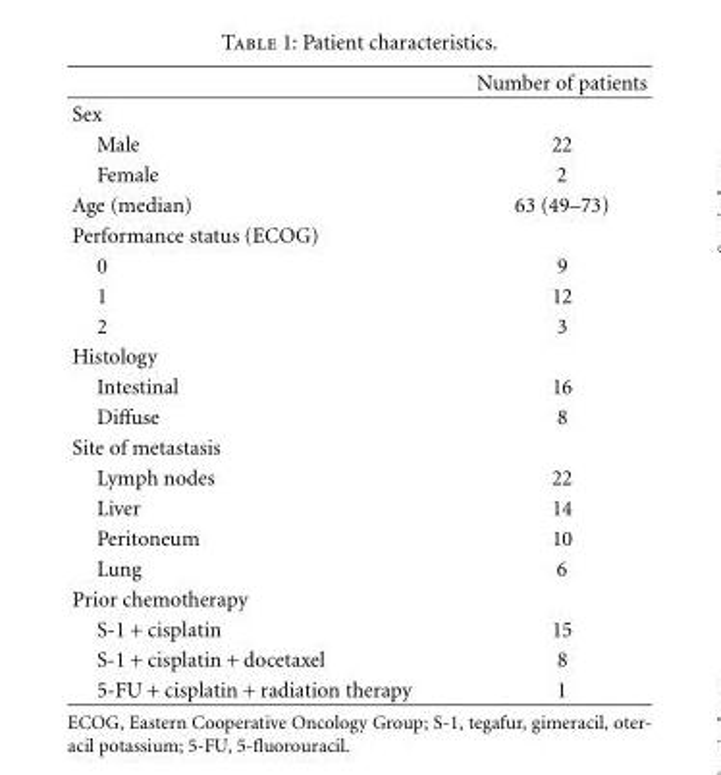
<table><thead><tr><td></td><td>Number of patients</td></tr></thead><tbody><tr><td colspan="2">Sex</td></tr><tr><td>Male</td><td>22</td></tr><tr><td>Female</td><td>2</td></tr><tr><td>Age (median)</td><td>63 (49–73)</td></tr><tr><td colspan="2">Performance status (ECOG)</td></tr><tr><td>0</td><td>9</td></tr><tr><td>1</td><td>12</td></tr><tr><td>2</td><td>3</td></tr><tr><td colspan="2">Histology</td></tr><tr><td>Intestinal</td><td>16</td></tr><tr><td>Diffuse</td><td>8</td></tr><tr><td colspan="2">Site of metastasis</td></tr><tr><td>Lymph nodes</td><td>22</td></tr><tr><td>Liver</td><td>14</td></tr><tr><td>Peritoneum</td><td>10</td></tr><tr><td>Lung</td><td>6</td></tr><tr><td colspan="2">Prior chemotherapy</td></tr><tr><td>S-1 + cisplatin</td><td>15</td></tr><tr><td>S-1 + cisplatin + docetaxel</td><td>8</td></tr><tr><td>5-FU + cisplatin + radiation therapy</td><td>1</td></tr></tbody></table>